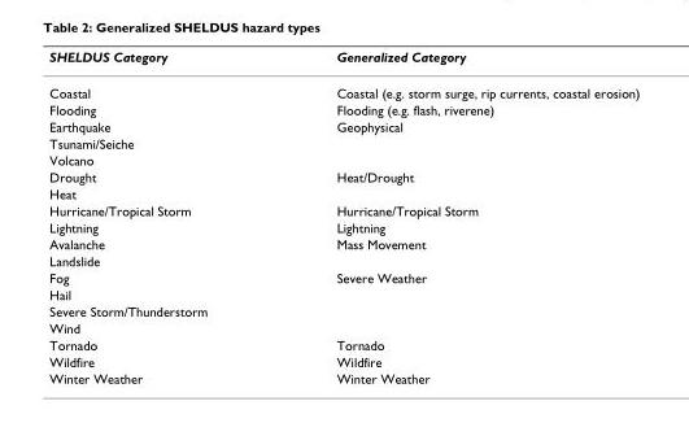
<table><thead><tr><td>SHELDUS Category</td><td>Generalized Category</td></tr></thead><tbody><tr><td>Coastal</td><td>Coastal (e.g. storm surge, rip currents, coastal erosion)</td></tr><tr><td>Flooding</td><td>Flooding (e.g. flash, riverene)</td></tr><tr><td>Earthquake</td><td>Geophysical</td></tr><tr><td colspan="2">Tsunami/Seiche</td></tr><tr><td colspan="2">Volcano</td></tr><tr><td>Drought</td><td>Heat/Drought</td></tr><tr><td colspan="2">Heat</td></tr><tr><td>Hurricane/Tropical Storm</td><td>Hurricane/Tropical Storm</td></tr><tr><td>Lightning</td><td>Lightning</td></tr><tr><td>Avalanche</td><td>Mass Movement</td></tr><tr><td colspan="2">Landslide</td></tr><tr><td>Fog</td><td>Severe Weather</td></tr><tr><td colspan="2">Hail</td></tr><tr><td colspan="2">Severe Storm/Thunderstorm</td></tr><tr><td colspan="2">Wind</td></tr><tr><td>Tornado</td><td>Tornado</td></tr><tr><td>Wildfire</td><td>Wildfire</td></tr><tr><td>Winter Weather</td><td>Winter Weather</td></tr></tbody></table>